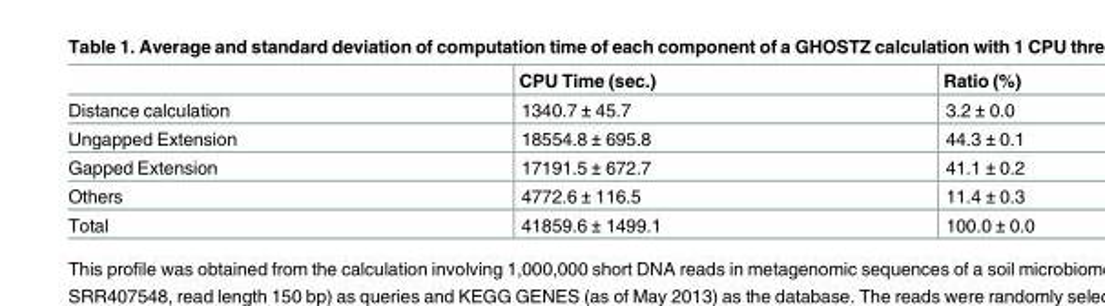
<table><thead><tr><td></td><td>CPU Time (sec.)</td><td>Ratio (%)</td></tr></thead><tbody><tr><td>Distance calculation</td><td>1340.7 ± 45.7</td><td>3.2 ± 0.0</td></tr><tr><td>Ungapped Extension</td><td>18554.8 ± 695.8</td><td>44.3 ± 0.1</td></tr><tr><td>Gapped Extension</td><td>17191.5 ± 672.7</td><td>41.1 ± 0.2</td></tr><tr><td>Others</td><td>4772.6 ± 116.5</td><td>11.4 ± 0.3</td></tr><tr><td>Total</td><td>41859.6 ± 1499.1</td><td>100.0 ± 0.0</td></tr></tbody></table>